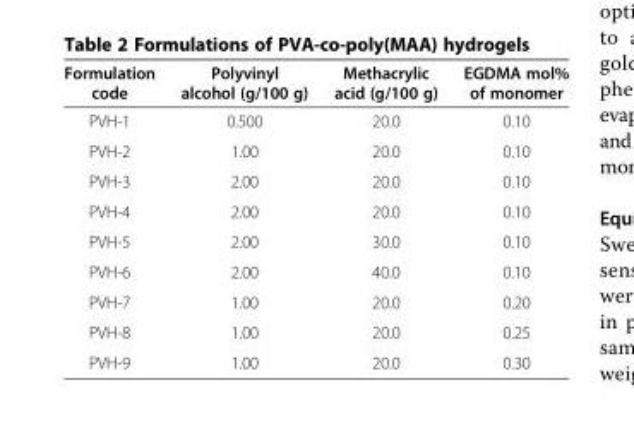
<table><thead><tr><td>Formulation code</td><td>Polyvinyl alcohol (g/100 g)</td><td>Methacrylic acid (g/100 g)</td><td>EGDMA mol% of monomer</td></tr></thead><tbody><tr><td>PVH-1</td><td>0.500</td><td>20.0</td><td>0.10</td></tr><tr><td>PVH-2</td><td>1.00</td><td>20.0</td><td>0.10</td></tr><tr><td>PVH-3</td><td>2.00</td><td>20.0</td><td>0.10</td></tr><tr><td>PVH-4</td><td>2.00</td><td>20.0</td><td>0.10</td></tr><tr><td>PVH-5</td><td>2.00</td><td>30.0</td><td>0.10</td></tr><tr><td>PVH-6</td><td>2.00</td><td>40.0</td><td>0.10</td></tr><tr><td>PVH-7</td><td>1.00</td><td>20.0</td><td>0.20</td></tr><tr><td>PVH-8</td><td>1.00</td><td>20.0</td><td>0.25</td></tr><tr><td>PVH-9</td><td>1.00</td><td>20.0</td><td>0.30</td></tr></tbody></table>